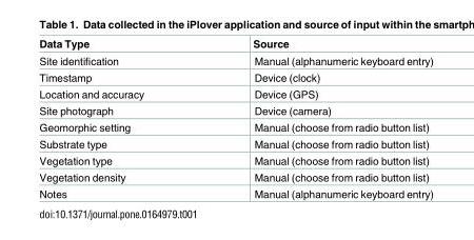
<table><thead><tr><td>Data Type</td><td>Source</td></tr></thead><tbody><tr><td>Site identification</td><td>Manual (alphanumeric keyboard entry)</td></tr><tr><td>Timestamp</td><td>Device (clock)</td></tr><tr><td>Location and accuracy</td><td>Device (GPS)</td></tr><tr><td>Site photograph</td><td>Device (camera)</td></tr><tr><td>Geomorphic setting</td><td>Manual (choose from radio button list)</td></tr><tr><td>Substrate type</td><td>Manual (choose from radio button list)</td></tr><tr><td>Vegetation type</td><td>Manual (choose from radio button list)</td></tr><tr><td>Vegetation density</td><td>Manual (choose from radio button list)</td></tr><tr><td>Notes</td><td>Manual (alphanumeric keyboard entry)</td></tr></tbody></table>